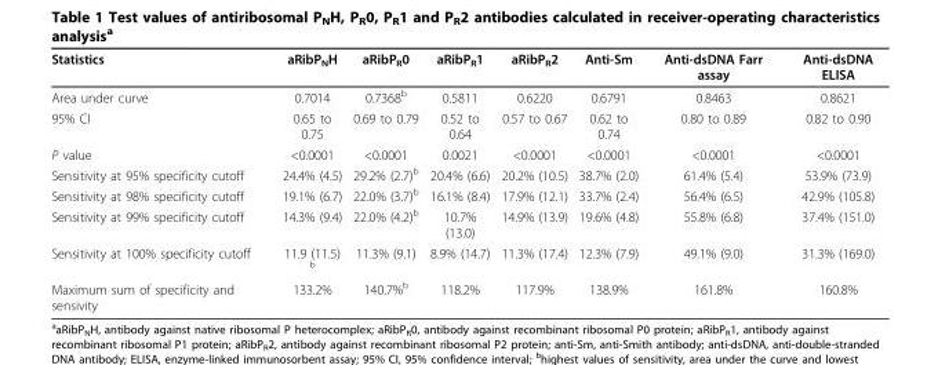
<table><thead><tr><td>Statistics</td><td>aRibP<sub>N</sub>H</td><td>aRibP<sub>R</sub>0</td><td>aRibP<sub>R</sub>1</td><td>aRibP<sub>R</sub>2</td><td>Anti-Sm</td><td>Anti-dsDNA Farr assay</td><td>Anti-dsDNA ELISA</td></tr></thead><tbody><tr><td>Area under curve</td><td>0.7014</td><td>0.7368<sup>b</sup></td><td>0.5811</td><td>0.6220</td><td>0.6791</td><td>0.8463</td><td>0.8621</td></tr><tr><td>95% CI</td><td>0.65 to 0.75</td><td>0.69 to 0.79</td><td>0.52 to 0.64</td><td>0.57 to 0.67</td><td>0.62 to 0.74</td><td>0.80 to 0.89</td><td>0.82 to 0.90</td></tr><tr><td>P value</td><td>&lt;0.0001</td><td>&lt;0.0001</td><td>0.0021</td><td>&lt;0.0001</td><td>&lt;0.0001</td><td>&lt;0.0001</td><td>&lt;0.0001</td></tr><tr><td>Sensitivity at 95% specificity cutoff</td><td>24.4% (4.5)</td><td>29.2% (2.7)<sup>b</sup></td><td>20.4% (6.6)</td><td>20.2% (10.5)</td><td>38.7% (2.0)</td><td>61.4% (5.4)</td><td>53.9% (73.9)</td></tr><tr><td>Sensitivity at 98% specificity cutoff</td><td>19.1% (6.7)</td><td>22.0% (3.7)<sup>b</sup></td><td>16.1% (8.4)</td><td>17.9% (12.1)</td><td>33.7% (2.4)</td><td>56.4% (6.5)</td><td>42.9% (105.8)</td></tr><tr><td>Sensitivity at 99% specificity cutoff</td><td>14.3% (9.4)</td><td>22.0% (4.2)<sup>b</sup></td><td>10.7% (13.0)</td><td>14.9% (13.9)</td><td>19.6% (4.8)</td><td>55.8% (6.8)</td><td>37.4% (151.0)</td></tr><tr><td>Sensitivity at 100% specificity cutoff</td><td>11.9 (11.5) <sup>b</sup></td><td>11.3% (9.1)</td><td>8.9% (14.7)</td><td>11.3% (17.4)</td><td>12.3% (7.9)</td><td>49.1% (9.0)</td><td>31.3% (169.0)</td></tr><tr><td>Maximum sum of specificity and sensivity</td><td>133.2%</td><td>140.7%<sup>b</sup></td><td>118.2%</td><td>117.9%</td><td>138.9%</td><td>161.8%</td><td>160.8%</td></tr></tbody></table>